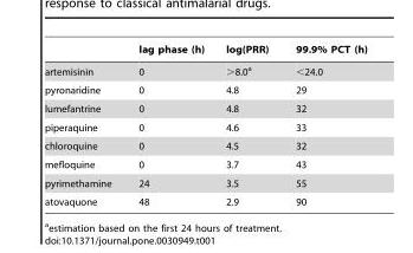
<table><thead><tr><td></td><td>lag phase (h)</td><td>log(PRR)</td><td>99.9% PCT (h)</td></tr></thead><tbody><tr><td>artemisinin</td><td>0</td><td>&gt;8.0<sup>a</sup></td><td>&lt;24.0</td></tr><tr><td>pyronaridine</td><td>0</td><td>4.8</td><td>29</td></tr><tr><td>lumefantrine</td><td>0</td><td>4.8</td><td>32</td></tr><tr><td>piperaquine</td><td>0</td><td>4.6</td><td>33</td></tr><tr><td>chloroquine</td><td>0</td><td>4.5</td><td>32</td></tr><tr><td>mefloquine</td><td>0</td><td>3.7</td><td>43</td></tr><tr><td>pyrimethamine</td><td>24</td><td>3.5</td><td>55</td></tr><tr><td>atovaquone</td><td>48</td><td>2.9</td><td>90</td></tr></tbody></table>